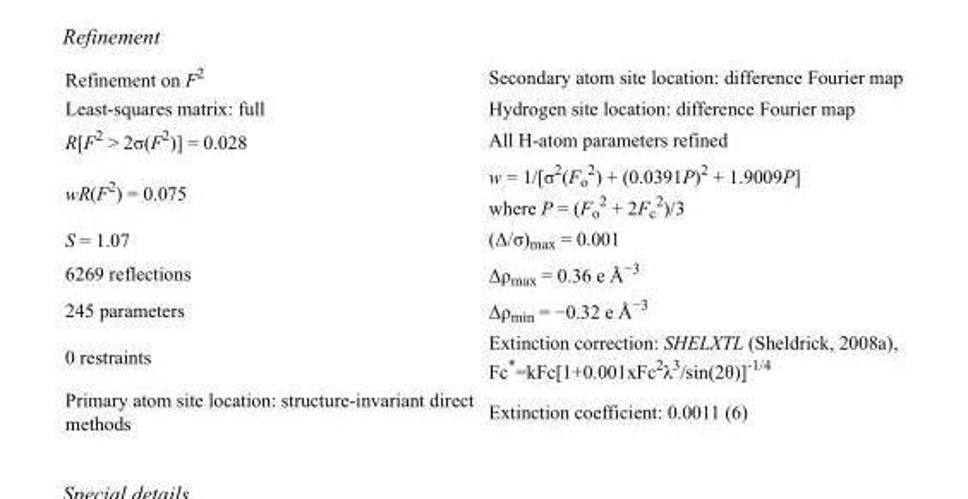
<table><tbody><tr><td>Refinement on F<sup>2</sup></td><td>Secondary atom site location: difference Fourier map</td></tr><tr><td>Least-squares matrix: full</td><td>Hydrogen site location: difference Fourier map</td></tr><tr><td>R[F<sup>2</sup> &gt; 2σ(F<sup>2</sup>)] = 0.028</td><td>All H-atom parameters refined</td></tr><tr><td>wR(F<sup>2</sup>) = 0.075</td><td>w = 1/[σ<sup>2</sup>(F<sub>o</sub> <sup>2</sup>) + (0.0391P)<sup>2</sup> + 1.9009P] where P = (F<sub>o</sub> <sup>2</sup> + 2F<sub>c</sub> <sup>2</sup>)/3</td></tr><tr><td>S = 1.07</td><td>(Δ/σ)<sub>max</sub> = 0.001</td></tr><tr><td>6269 reflections</td><td>Δρ<sub>max</sub> = 0.36 e Å<sup>−3</sup></td></tr><tr><td>245 parameters</td><td>Δρ<sub>min</sub> = −0.32 e Å<sup>−3</sup></td></tr><tr><td>0 restraints</td><td>Extinction correction: SHELXTL (Sheldrick, 2008a), Fc*=kFc[1+0.001xFc<sup>2</sup>λ<sup>3</sup>/sin(2θ)]<sup>-1/4</sup></td></tr><tr><td>Primary atom site location: structure-invariant direct methods</td><td>Extinction coefficient: 0.0011 (6)</td></tr></tbody></table>